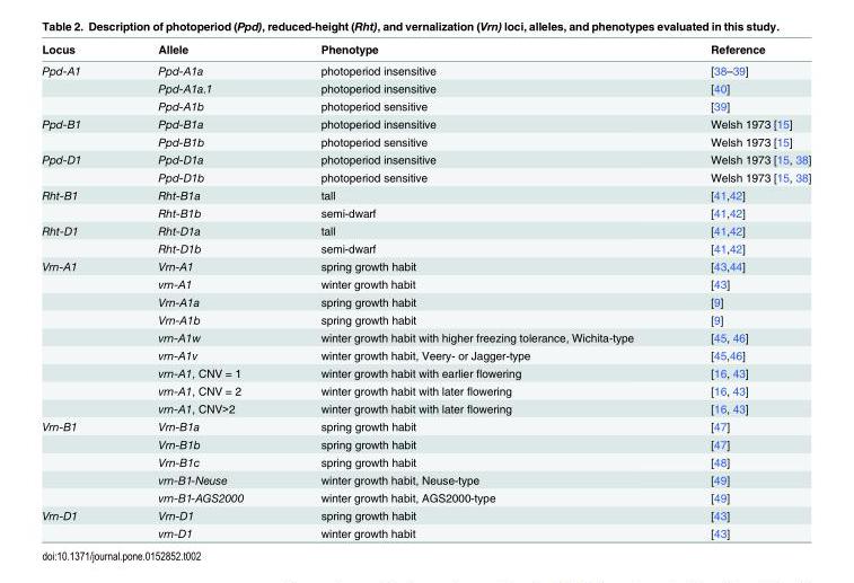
<table><thead><tr><td>Locus</td><td>Allele</td><td>Phenotype</td><td>Reference</td></tr></thead><tbody><tr><td rowspan="3">Ppd-A1</td><td>Ppd-A1a</td><td>photoperiod insensitive</td><td>[38–39]</td></tr><tr><td>Ppd-A1a.1</td><td>photoperiod insensitive</td><td>[40]</td></tr><tr><td>Ppd-A1b</td><td>photoperiod sensitive</td><td>[39]</td></tr><tr><td rowspan="2">Ppd-B1</td><td>Ppd-B1a</td><td>photoperiod insensitive</td><td>Welsh 1973 [15]</td></tr><tr><td>Ppd-B1b</td><td>photoperiod sensitive</td><td>Welsh 1973 [15]</td></tr><tr><td rowspan="2">Ppd-D1</td><td>Ppd-D1a</td><td>photoperiod insensitive</td><td>Welsh 1973 [15, 38]</td></tr><tr><td>Ppd-D1b</td><td>photoperiod sensitive</td><td>Welsh 1973 [15, 38]</td></tr><tr><td rowspan="2">Rht-B1</td><td>Rht-B1a</td><td>tall</td><td>[41,42]</td></tr><tr><td>Rht-B1b</td><td>semi-dwarf</td><td>[41,42]</td></tr><tr><td rowspan="2">Rht-D1</td><td>Rht-D1a</td><td>tall</td><td>[41,42]</td></tr><tr><td>Rht-D1b</td><td>semi-dwarf</td><td>[41,42]</td></tr><tr><td rowspan="9">Vrn-A1</td><td>Vrn-A1</td><td>spring growth habit</td><td>[43,44]</td></tr><tr><td>vrn-A1</td><td>winter growth habit</td><td>[43]</td></tr><tr><td>Vrn-A1a</td><td>spring growth habit</td><td>[9]</td></tr><tr><td>Vrn-A1b</td><td>spring growth habit</td><td>[9]</td></tr><tr><td>vrn-A1w</td><td>winter growth habit with higher freezing tolerance, Wichita-type</td><td>[45, 46]</td></tr><tr><td>vrn-A1v</td><td>winter growth habit, Veery- or Jagger-type</td><td>[45,46]</td></tr><tr><td>vrn-A1, CNV = 1</td><td>winter growth habit with earlier flowering</td><td>[16, 43]</td></tr><tr><td>vrn-A1, CNV = 2</td><td>winter growth habit with later flowering</td><td>[16, 43]</td></tr><tr><td>vrn-A1, CNV&gt;2</td><td>winter growth habit with later flowering</td><td>[16, 43]</td></tr><tr><td rowspan="5">Vrn-B1</td><td>Vrn-B1a</td><td>spring growth habit</td><td>[47]</td></tr><tr><td>Vrn-B1b</td><td>spring growth habit</td><td>[47]</td></tr><tr><td>Vrn-B1c</td><td>spring growth habit</td><td>[48]</td></tr><tr><td>vrn-B1-Neuse</td><td>winter growth habit, Neuse-type</td><td>[49]</td></tr><tr><td>vrn-B1-AGS2000</td><td>winter growth habit, AGS2000-type</td><td>[49]</td></tr><tr><td rowspan="2">Vrn-D1</td><td>Vrn-D1</td><td>spring growth habit</td><td>[43]</td></tr><tr><td>vrn-D1</td><td>winter growth habit</td><td>[43]</td></tr></tbody></table>